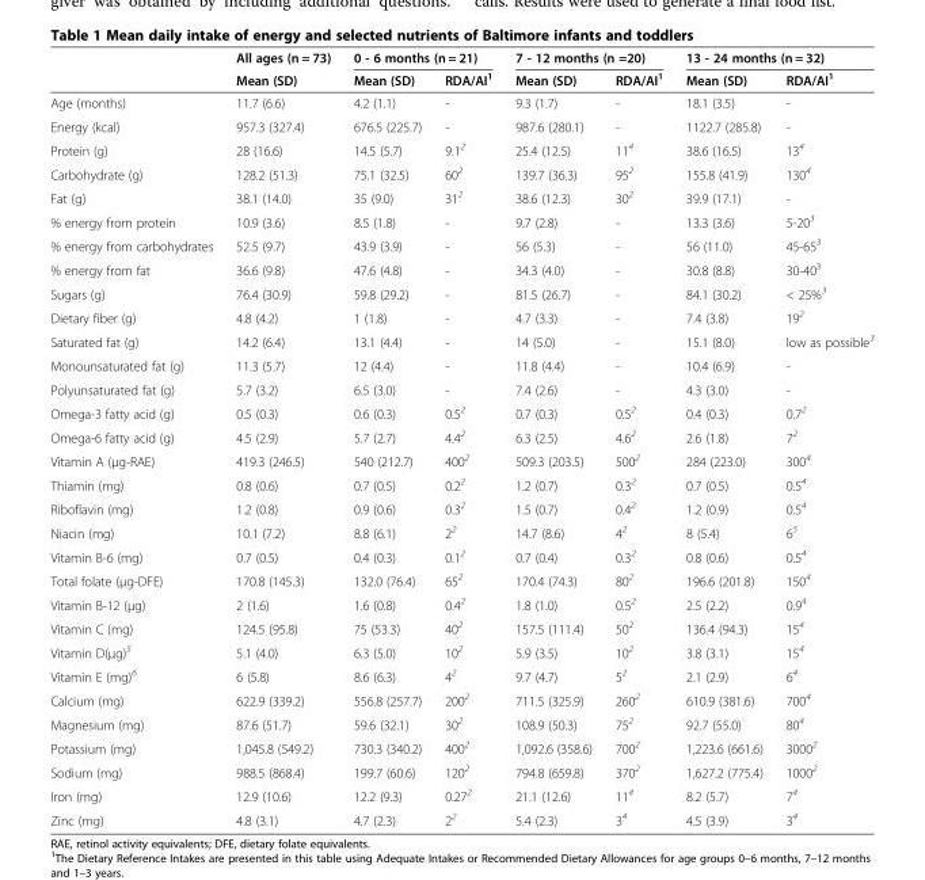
<table><thead><tr><td rowspan="2"></td><td rowspan="2">All ages (n = 73) Mean (SD)</td><td colspan="2">0 - 6 months (n = 21)</td><td colspan="2">7 - 12 months (n =20)</td><td colspan="2">13 - 24 months (n = 32)</td></tr><tr><td>Mean (SD)</td><td>RDA/AI<sup>1</sup></td><td>Mean (SD)</td><td>RDA/AI<sup>1</sup></td><td>Mean (SD)</td><td>RDA/AI<sup>1</sup></td></tr></thead><tbody><tr><td>Age (months)</td><td>11.7 (6.6)</td><td>4.2 (1.1)</td><td>-</td><td>9.3 (1.7)</td><td>-</td><td>18.1 (3.5)</td><td>-</td></tr><tr><td>Energy (kcal)</td><td>957.3 (327.4)</td><td>676.5 (225.7)</td><td>-</td><td>987.6 (280.1)</td><td>-</td><td>1122.7 (285.8)</td><td>-</td></tr><tr><td>Protein (g)</td><td>28 (16.6)</td><td>14.5 (5.7)</td><td>9.1<sup>2</sup></td><td>25.4 (12.5)</td><td>11<sup>4</sup></td><td>38.6 (16.5)</td><td>13<sup>4</sup></td></tr><tr><td>Carbohydrate (g)</td><td>128.2 (51.3)</td><td>75.1 (32.5)</td><td>60<sup>2</sup></td><td>139.7 (36.3)</td><td>95<sup>2</sup></td><td>155.8 (41.9)</td><td>130<sup>4</sup></td></tr><tr><td>Fat (g)</td><td>38.1 (14.0)</td><td>35 (9.0)</td><td>31<sup>2</sup></td><td>38.6 (12.3)</td><td>30<sup>2</sup></td><td>39.9 (17.1)</td><td>-</td></tr><tr><td>% energy from protein</td><td>10.9 (3.6)</td><td>8.5 (1.8)</td><td>-</td><td>9.7 (2.8)</td><td>-</td><td>13.3 (3.6)</td><td>5-20<sup>3</sup></td></tr><tr><td>% energy from carbohydrates</td><td>52.5 (9.7)</td><td>43.9 (3.9)</td><td>-</td><td>56 (5.3)</td><td>-</td><td>56 (11.0)</td><td>45-65<sup>3</sup></td></tr><tr><td>% energy from fat</td><td>36.6 (9.8)</td><td>47.6 (4.8)</td><td>-</td><td>34.3 (4.0)</td><td>-</td><td>30.8 (8.8)</td><td>30-40<sup>3</sup></td></tr><tr><td>Sugars (g)</td><td>76.4 (30.9)</td><td>59.8 (29.2)</td><td>-</td><td>81.5 (26.7)</td><td>-</td><td>84.1 (30.2)</td><td>&lt; 25%<sup>3</sup></td></tr><tr><td>Dietary fiber (g)</td><td>4.8 (4.2)</td><td>1 (1.8)</td><td>-</td><td>4.7 (3.3)</td><td>-</td><td>7.4 (3.8)</td><td>19<sup>2</sup></td></tr><tr><td>Saturated fat (g)</td><td>14.2 (6.4)</td><td>13.1 (4.4)</td><td>-</td><td>14 (5.0)</td><td>-</td><td>15.1 (8.0)</td><td>low as possible<sup>3</sup></td></tr><tr><td>Monounsaturated fat (g)</td><td>11.3 (5.7)</td><td>12 (4.4)</td><td>-</td><td>11.8 (4.4)</td><td>-</td><td>10.4 (6.9)</td><td>-</td></tr><tr><td>Polyunsaturated fat (g)</td><td>5.7 (3.2)</td><td>6.5 (3.0)</td><td>-</td><td>7.4 (2.6)</td><td>-</td><td>4.3 (3.0)</td><td>-</td></tr><tr><td>Omega-3 fatty acid (g)</td><td>0.5 (0.3)</td><td>0.6 (0.3)</td><td>0.5<sup>2</sup></td><td>0.7 (0.3)</td><td>0.5<sup>2</sup></td><td>0.4 (0.3)</td><td>0.7<sup>2</sup></td></tr><tr><td>Omega-6 fatty acid (g)</td><td>4.5 (2.9)</td><td>5.7 (2.7)</td><td>4.4<sup>2</sup></td><td>6.3 (2.5)</td><td>4.6<sup>2</sup></td><td>2.6 (1.8)</td><td>7<sup>2</sup></td></tr><tr><td>Vitamin A (μg-RAE)</td><td>419.3 (246.5)</td><td>540 (212.7)</td><td>400<sup>2</sup></td><td>509.3 (203.5)</td><td>500<sup>2</sup></td><td>284 (223.0)</td><td>300<sup>4</sup></td></tr><tr><td>Thiamin (mg)</td><td>0.8 (0.6)</td><td>0.7 (0.5)</td><td>0.2<sup>2</sup></td><td>1.2 (0.7)</td><td>0.3<sup>2</sup></td><td>0.7 (0.5)</td><td>0.5<sup>4</sup></td></tr><tr><td>Riboflavin (mg)</td><td>1.2 (0.8)</td><td>0.9 (0.6)</td><td>0.3<sup>2</sup></td><td>1.5 (0.7)</td><td>0.4<sup>2</sup></td><td>1.2 (0.9)</td><td>0.5<sup>4</sup></td></tr><tr><td>Niacin (mg)</td><td>10.1 (7.2)</td><td>8.8 (6.1)</td><td>2<sup>2</sup></td><td>14.7 (8.6)</td><td>4<sup>2</sup></td><td>8 (5.4)</td><td>6<sup>5</sup></td></tr><tr><td>Vitamin B-6 (mg)</td><td>0.7 (0.5)</td><td>0.4 (0.3)</td><td>0.1<sup>2</sup></td><td>0.7 (0.4)</td><td>0.3<sup>2</sup></td><td>0.8 (0.6)</td><td>0.5<sup>4</sup></td></tr><tr><td>Total folate (μg-DFE)</td><td>170.8 (145.3)</td><td>132.0 (76.4)</td><td>65<sup>2</sup></td><td>170.4 (74.3)</td><td>80<sup>2</sup></td><td>196.6 (201.8)</td><td>150<sup>4</sup></td></tr><tr><td>Vitamin B-12 (μg)</td><td>2 (1.6)</td><td>1.6 (0.8)</td><td>0.4<sup>2</sup></td><td>1.8 (1.0)</td><td>0.5<sup>2</sup></td><td>2.5 (2.2)</td><td>0.9<sup>4</sup></td></tr><tr><td>Vitamin C (mg)</td><td>124.5 (95.8)</td><td>75 (53.3)</td><td>40<sup>2</sup></td><td>157.5 (111.4)</td><td>50<sup>2</sup></td><td>136.4 (94.3)</td><td>15<sup>4</sup></td></tr><tr><td>Vitamin D(μg)<sup>5</sup></td><td>5.1 (4.0)</td><td>6.3 (5.0)</td><td>10<sup>2</sup></td><td>5.9 (3.5)</td><td>10<sup>2</sup></td><td>3.8 (3.1)</td><td>15<sup>4</sup></td></tr><tr><td>Vitamin E (mg)<sup>6</sup></td><td>6 (5.8)</td><td>8.6 (6.3)</td><td>4<sup>2</sup></td><td>9.7 (4.7)</td><td>5<sup>2</sup></td><td>2.1 (2.9)</td><td>6<sup>4</sup></td></tr><tr><td>Calcium (mg)</td><td>622.9 (339.2)</td><td>556.8 (257.7)</td><td>200<sup>2</sup></td><td>711.5 (325.9)</td><td>260<sup>2</sup></td><td>610.9 (381.6)</td><td>700<sup>4</sup></td></tr><tr><td>Magnesium (mg)</td><td>87.6 (51.7)</td><td>59.6 (32.1)</td><td>30<sup>2</sup></td><td>108.9 (50.3)</td><td>75<sup>2</sup></td><td>92.7 (55.0)</td><td>80<sup>4</sup></td></tr><tr><td>Potassium (mg)</td><td>1,045.8 (549.2)</td><td>730.3 (340.2)</td><td>400<sup>2</sup></td><td>1,092.6 (358.6)</td><td>700<sup>2</sup></td><td>1,223.6 (661.6)</td><td>3000<sup>2</sup></td></tr><tr><td>Sodium (mg)</td><td>988.5 (868.4)</td><td>199.7 (60.6)</td><td>120<sup>2</sup></td><td>794.8 (659.8)</td><td>370<sup>2</sup></td><td>1,627.2 (775.4)</td><td>1000<sup>2</sup></td></tr><tr><td>Iron (mg)</td><td>12.9 (10.6)</td><td>12.2 (9.3)</td><td>0.27<sup>2</sup></td><td>21.1 (12.6)</td><td>11<sup>4</sup></td><td>8.2 (5.7)</td><td>7<sup>4</sup></td></tr><tr><td>Zinc (mg)</td><td>4.8 (3.1)</td><td>4.7 (2.3)</td><td>2<sup>2</sup></td><td>5.4 (2.3)</td><td>3<sup>4</sup></td><td>4.5 (3.9)</td><td>3<sup>4</sup></td></tr></tbody></table>